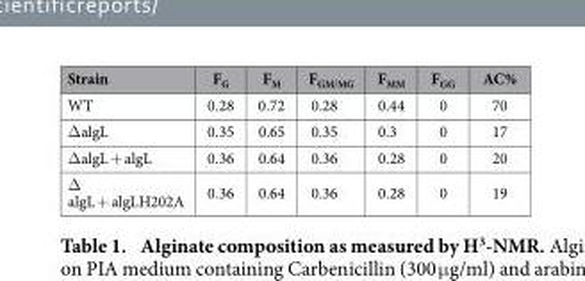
<table><thead><tr><td>Strain</td><td>F<sub>G</sub></td><td>F<sub>M</sub></td><td>F<sub>GM/MG</sub></td><td>F<sub>MM</sub></td><td>F<sub>GG</sub></td><td>AC%</td></tr></thead><tbody><tr><td>WT</td><td>0.28</td><td>0.72</td><td>0.28</td><td>0.44</td><td>0</td><td>70</td></tr><tr><td>Δ algL</td><td>0.35</td><td>0.65</td><td>0.35</td><td>0.3</td><td>0</td><td>17</td></tr><tr><td>Δ algL + algL</td><td>0.36</td><td>0.64</td><td>0.36</td><td>0.28</td><td>0</td><td>20</td></tr><tr><td>Δ algL + algLH202A</td><td>0.36</td><td>0.64</td><td>0.36</td><td>0.28</td><td>0</td><td>19</td></tr></tbody></table>